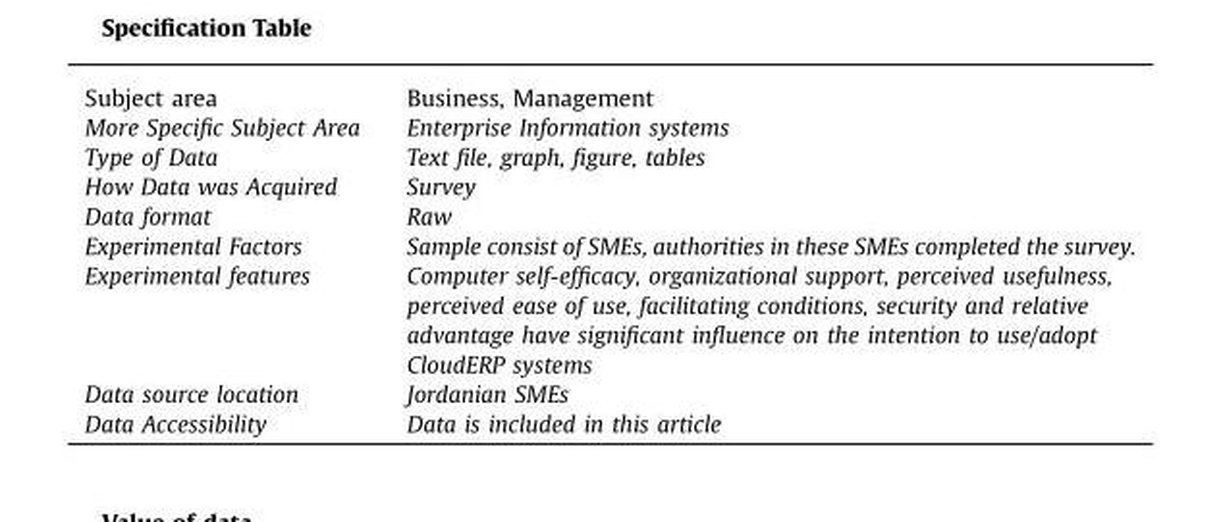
<table><tbody><tr><td>Subject area</td><td>Business, Management</td></tr><tr><td>More Specific Subject Area</td><td>Enterprise Information systems</td></tr><tr><td>Type of Data</td><td>Text file, graph, figure, tables</td></tr><tr><td>How Data was Acquired</td><td>Survey</td></tr><tr><td>Data format</td><td>Raw</td></tr><tr><td>Experimental Factors</td><td>Sample consist of SMEs, authorities in these SMEs completed the survey.</td></tr><tr><td>Experimental features</td><td>Computer self-efficacy, organizational support, perceived usefulness, perceived ease of use, facilitating conditions, security and relative advantage have significant influence on the intention to use/adopt CloudERP systems</td></tr><tr><td>Data source location</td><td>Jordanian SMEs</td></tr><tr><td>Data Accessibility</td><td>Data is included in this article</td></tr></tbody></table>